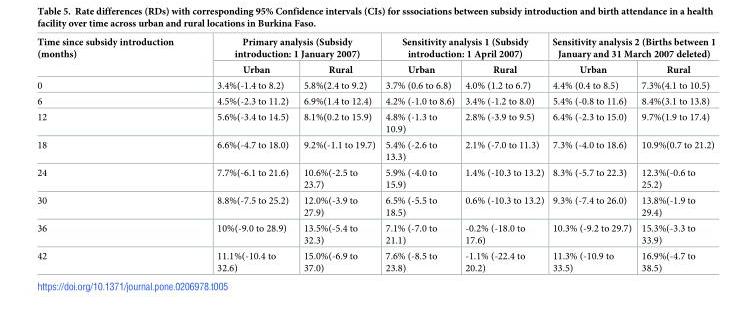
<table><thead><tr><td rowspan="2">Time since subsidy introduction (months)</td><td colspan="2">Primary analysis (Subsidy introduction: 1 January 2007)</td><td colspan="2">Sensitivity analysis 1 (Subsidy introduction: 1 April 2007)</td><td colspan="2">Sensitivity analysis 2 (Births between 1 January and 31 March 2007 deleted)</td></tr><tr><td>Urban</td><td>Rural</td><td>Urban</td><td>Rural</td><td>Urban</td><td>Rural</td></tr></thead><tbody><tr><td>0</td><td>3.4%(-1.4 to 8.2)</td><td>5.8%(2.4 to 9.2)</td><td>3.7% (0.6 to 6.8)</td><td>4.0% (1.2 to 6.7)</td><td>4.4% (0.4 to 8.5)</td><td>7.3%(4.1 to 10.5)</td></tr><tr><td>6</td><td>4.5%(-2.3 to 11.2)</td><td>6.9%(1.4 to 12.4)</td><td>4.2% (-1.0 to 8.6)</td><td>3.4% (-1.2 to 8.0)</td><td>5.4% (-0.8 to 11.6)</td><td>8.4%(3.1 to 13.8)</td></tr><tr><td>12</td><td>5.6%(-3.4 to 14.5)</td><td>8.1%(0.2 to 15.9)</td><td>4.8% (-1.3 to 10.9)</td><td>2.8% (-3.9 to 9.5)</td><td>6.4% (-2.3 to 15.0)</td><td>9.7%(1.9 to 17.4)</td></tr><tr><td>18</td><td>6.6%(-4.7 to 18.0)</td><td>9.2%(-1.1 to 19.7)</td><td>5.4% (-2.6 to 13.3)</td><td>2.1% (-7.0 to 11.3)</td><td>7.3% (-4.0 to 18.6)</td><td>10.9%(0.7 to 21.2)</td></tr><tr><td>24</td><td>7.7%(-6.1 to 21.6)</td><td>10.6%(-2.5 to 23.7)</td><td>5.9% (-4.0 to 15.9)</td><td>1.4% (-10.3 to 13.2)</td><td>8.3% (-5.7 to 22.3)</td><td>12.3%(-0.6 to 25.2)</td></tr><tr><td>30</td><td>8.8%(-7.5 to 25.2)</td><td>12.0%(-3.9 to 27.9)</td><td>6.5% (-5.5 to 18.5)</td><td>0.6% (-10.3 to 13.2)</td><td>9.3% (-7.4 to 26.0)</td><td>13.8%(-1.9 to 29.4)</td></tr><tr><td>36</td><td>10%(-9.0 to 28.9)</td><td>13.5%(-5.4 to 32.3)</td><td>7.1% (-7.0 to 21.1)</td><td>-0.2% (-18.0 to 17.6)</td><td>10.3% (-9.2 to 29.7)</td><td>15.3%(-3.3 to 33.9)</td></tr><tr><td>42</td><td>11.1%(-10.4 to 32.6)</td><td>15.0%(-6.9 to 37.0)</td><td>7.6% (-8.5 to 23.8)</td><td>-1.1% (-22.4 to 20.2)</td><td>11.3% (-10.9 to 33.5)</td><td>16.9%(-4.7 to 38.5)</td></tr></tbody></table>